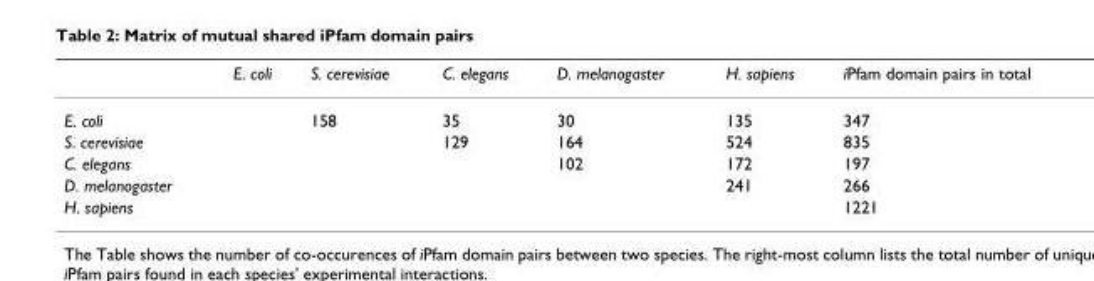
<table><thead><tr><td></td><td>E. coli</td><td>S. cerevisiae</td><td>C. elegans</td><td>D. melanogaster</td><td>H. sapiens</td><td>iPfam domain pairs in total</td></tr></thead><tbody><tr><td>E. coli</td><td></td><td>158</td><td>35</td><td>30</td><td>135</td><td>347</td></tr><tr><td>S. cerevisiae</td><td></td><td></td><td>129</td><td>164</td><td>524</td><td>835</td></tr><tr><td>C. elegans</td><td></td><td></td><td></td><td>102</td><td>172</td><td>197</td></tr><tr><td>D. melanogaster</td><td></td><td></td><td></td><td></td><td>241</td><td>266</td></tr><tr><td>H. sapiens</td><td></td><td></td><td></td><td></td><td></td><td>1221</td></tr></tbody></table>